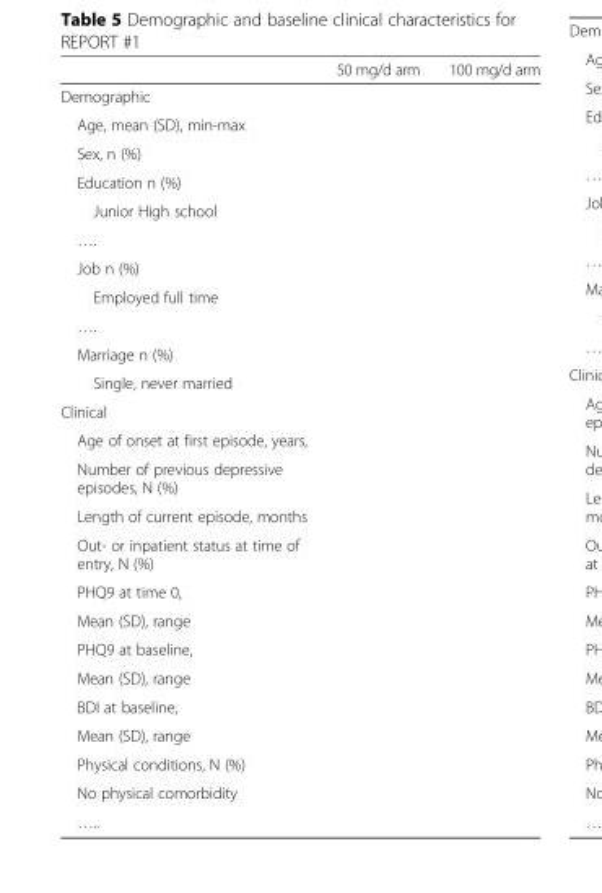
<table><thead><tr><td></td><td>50 mg/d arm</td><td>100 mg/d arm</td></tr></thead><tbody><tr><td colspan="3">Demographic</td></tr><tr><td colspan="3">Age, mean (SD), min-max</td></tr><tr><td colspan="3">Sex, n (%)</td></tr><tr><td colspan="3">Education n (%)</td></tr><tr><td colspan="3">Junior High school</td></tr><tr><td colspan="3">….</td></tr><tr><td colspan="3">Job n (%)</td></tr><tr><td colspan="3">Employed full time</td></tr><tr><td colspan="3">….</td></tr><tr><td colspan="3">Marriage n (%)</td></tr><tr><td colspan="3">Single, never married</td></tr><tr><td colspan="3">Clinical</td></tr><tr><td colspan="3">Age of onset at first episode, years,</td></tr><tr><td colspan="3">Number of previous depressive episodes, N (%)</td></tr><tr><td colspan="3">Length of current episode, months</td></tr><tr><td colspan="3">Out- or inpatient status at time of entry, N (%)</td></tr><tr><td colspan="3">PHQ9 at time 0,</td></tr><tr><td colspan="3">Mean (SD), range</td></tr><tr><td colspan="3">PHQ9 at baseline,</td></tr><tr><td colspan="3">Mean (SD), range</td></tr><tr><td colspan="3">BDI at baseline,</td></tr><tr><td colspan="3">Mean (SD), range</td></tr><tr><td colspan="3">Physical conditions, N (%)</td></tr><tr><td colspan="3">No physical comorbidity</td></tr><tr><td>…..</td><td></td><td></td></tr></tbody></table>